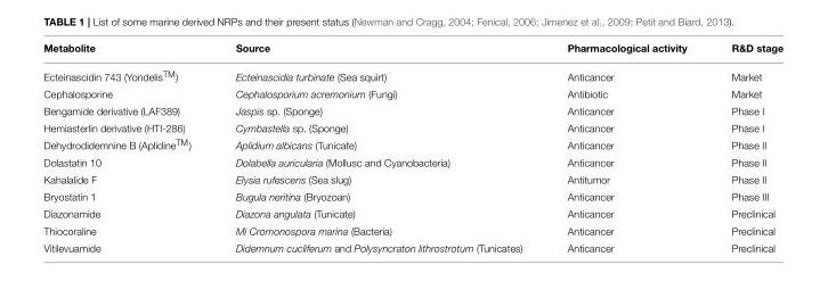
<table><thead><tr><td>Metabolite</td><td>Source</td><td>Pharmacological activity</td><td>R&amp;D stage</td></tr></thead><tbody><tr><td>Ecteinascidin 743 (Yondelis<sup>TM</sup>)</td><td>Ecteinascidia turbinate (Sea squirt)</td><td>Anticancer</td><td>Market</td></tr><tr><td>Cephalosporine</td><td>Cephalosporium acremonium (Fungi)</td><td>Antibiotic</td><td>Market</td></tr><tr><td>Bengamide derivative (LAF389)</td><td>Jaspis sp. (Sponge)</td><td>Anticancer</td><td>Phase I</td></tr><tr><td>Hemiasterlin derivative (HTI-286)</td><td>Cymbastella sp. (Sponge)</td><td>Anticancer</td><td>Phase I</td></tr><tr><td>Dehydrodidemnine B (Aplidine<sup>TM</sup>)</td><td>Aplidium albicans (Tunicate)</td><td>Anticancer</td><td>Phase II</td></tr><tr><td>Dolastatin 10</td><td>Dolabella auricularia (Mollusc and Cyanobacteria)</td><td>Anticancer</td><td>Phase II</td></tr><tr><td>Kahalalide F</td><td>Elysia rufescens (Sea slug)</td><td>Antitumor</td><td>Phase II</td></tr><tr><td>Bryostatin 1</td><td>Bugula neritina (Bryozoan)</td><td>Anticancer</td><td>Phase III</td></tr><tr><td>Diazonamide</td><td>Diazona angulata (Tunicate)</td><td>Anticancer</td><td>Preclinical</td></tr><tr><td>Thiocoraline</td><td>Mi Cromonospora marina (Bacteria)</td><td>Anticancer</td><td>Preclinical</td></tr><tr><td>Vitilevuamide</td><td>Didemnum cucliferum and Polysyncraton lithrostrotum (Tunicates)</td><td>Anticancer</td><td>Preclinical</td></tr></tbody></table>